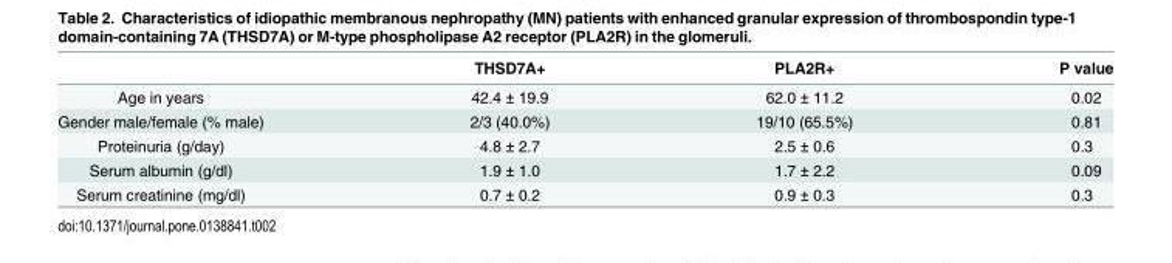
<table><thead><tr><td></td><td>THSD7A+</td><td>PLA2R+</td><td>P value</td></tr></thead><tbody><tr><td>Age in years</td><td>42.4 ± 19.9</td><td>62.0 ± 11.2</td><td>0.02</td></tr><tr><td>Gender male/female (% male)</td><td>2/3 (40.0%)</td><td>19/10 (65.5%)</td><td>0.81</td></tr><tr><td>Proteinuria (g/day)</td><td>4.8 ± 2.7</td><td>2.5 ± 0.6</td><td>0.3</td></tr><tr><td>Serum albumin (g/dl)</td><td>1.9 ± 1.0</td><td>1.7 ± 2.2</td><td>0.09</td></tr><tr><td>Serum creatinine (mg/dl)</td><td>0.7 ± 0.2</td><td>0.9 ± 0.3</td><td>0.3</td></tr></tbody></table>